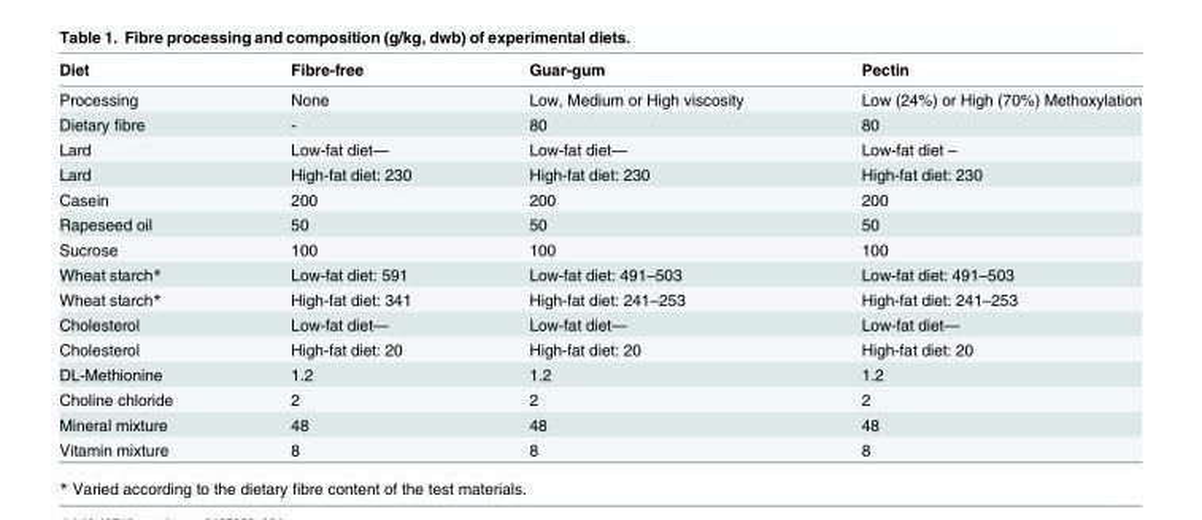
<table><thead><tr><td>Diet</td><td>Fibre-free</td><td>Guar-gum</td><td>Pectin</td></tr></thead><tbody><tr><td>Processing</td><td>None</td><td>Low, Medium or High viscosity</td><td>Low (24%) or High (70%) Methoxylation</td></tr><tr><td>Dietary fibre</td><td>-</td><td>80</td><td>80</td></tr><tr><td>Lard</td><td>Low-fat diet—</td><td>Low-fat diet—</td><td>Low-fat diet –</td></tr><tr><td>Lard</td><td>High-fat diet: 230</td><td>High-fat diet: 230</td><td>High-fat diet: 230</td></tr><tr><td>Casein</td><td>200</td><td>200</td><td>200</td></tr><tr><td>Rapeseed oil</td><td>50</td><td>50</td><td>50</td></tr><tr><td>Sucrose</td><td>100</td><td>100</td><td>100</td></tr><tr><td>Wheat starch*</td><td>Low-fat diet: 591</td><td>Low-fat diet: 491–503</td><td>Low-fat diet: 491–503</td></tr><tr><td>Wheat starch*</td><td>High-fat diet: 341</td><td>High-fat diet: 241–253</td><td>High-fat diet: 241–253</td></tr><tr><td>Cholesterol</td><td>Low-fat diet—</td><td>Low-fat diet—</td><td>Low-fat diet—</td></tr><tr><td>Cholesterol</td><td>High-fat diet: 20</td><td>High-fat diet: 20</td><td>High-fat diet: 20</td></tr><tr><td>DL-Methionine</td><td>1.2</td><td>1.2</td><td>1.2</td></tr><tr><td>Choline chloride</td><td>2</td><td>2</td><td>2</td></tr><tr><td>Mineral mixture</td><td>48</td><td>48</td><td>48</td></tr><tr><td>Vitamin mixture</td><td>8</td><td>8</td><td>8</td></tr></tbody></table>